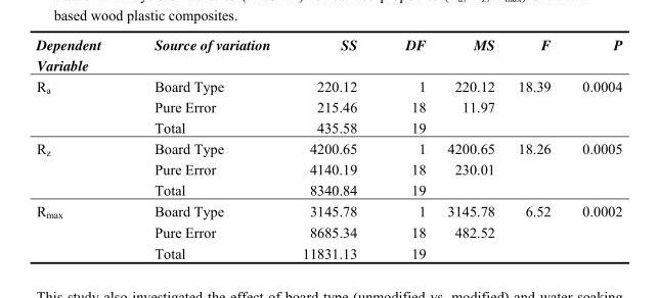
<table><thead><tr><td>Dependent Variable</td><td>Source of variation</td><td>SS</td><td>DF</td><td>MS</td><td>F</td><td>P</td></tr></thead><tbody><tr><td rowspan="3">R<sub>a</sub></td><td>Board Type</td><td>220.12</td><td>1</td><td>220.12</td><td>18.39</td><td>0.0004</td></tr><tr><td>Pure Error</td><td>215.46</td><td>18</td><td>11.97</td><td></td><td></td></tr><tr><td>Total</td><td>435.58</td><td>19</td><td></td><td></td><td></td></tr><tr><td rowspan="3">R<sub>z</sub></td><td>Board Type</td><td>4200.65</td><td>1</td><td>4200.65</td><td>18.26</td><td>0.0005</td></tr><tr><td>Pure Error</td><td>4140.19</td><td>18</td><td>230.01</td><td></td><td></td></tr><tr><td>Total</td><td>8340.84</td><td>19</td><td></td><td></td><td></td></tr><tr><td rowspan="3">R<sub>max</sub></td><td>Board Type</td><td>3145.78</td><td>1</td><td>3145.78</td><td>6.52</td><td>0.0002</td></tr><tr><td>Pure Error</td><td>8685.34</td><td>18</td><td>482.52</td><td></td><td></td></tr><tr><td>Total</td><td>11831.13</td><td>19</td><td></td><td></td><td></td></tr></tbody></table>